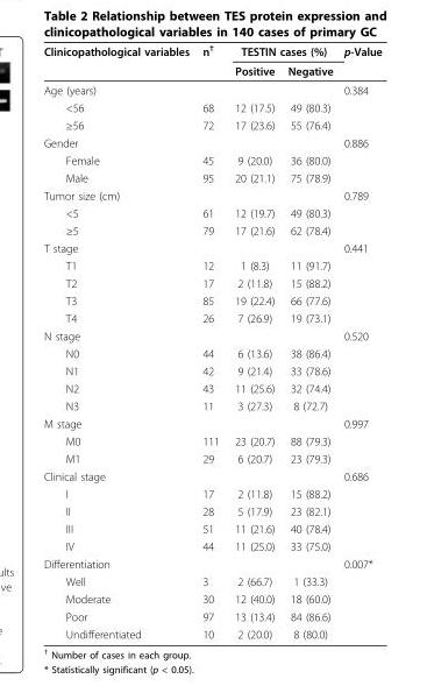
<table><thead><tr><td rowspan="2">Clinicopathological variables</td><td rowspan="2">n<sup>†</sup></td><td colspan="2">TESTIN cases (%)</td><td rowspan="2">p-Value</td></tr><tr><td>Positive</td><td>Negative</td></tr></thead><tbody><tr><td>Age (years)</td><td></td><td></td><td></td><td>0.384</td></tr><tr><td>&lt;56</td><td>68</td><td>12 (17.5)</td><td>49 (80.3)</td><td></td></tr><tr><td>≥56</td><td>72</td><td>17 (23.6)</td><td>55 (76.4)</td><td></td></tr><tr><td>Gender</td><td></td><td></td><td></td><td>0.886</td></tr><tr><td>Female</td><td>45</td><td>9 (20.0)</td><td>36 (80.0)</td><td></td></tr><tr><td>Male</td><td>95</td><td>20 (21.1)</td><td>75 (78.9)</td><td></td></tr><tr><td>Tumor size (cm)</td><td></td><td></td><td></td><td>0.789</td></tr><tr><td>&lt;5</td><td>61</td><td>12 (19.7)</td><td>49 (80.3)</td><td></td></tr><tr><td>≥5</td><td>79</td><td>17 (21.6)</td><td>62 (78.4)</td><td></td></tr><tr><td>T stage</td><td></td><td></td><td></td><td>0.441</td></tr><tr><td>T1</td><td>12</td><td>1 (8.3)</td><td>11 (91.7)</td><td></td></tr><tr><td>T2</td><td>17</td><td>2 (11.8)</td><td>15 (88.2)</td><td></td></tr><tr><td>T3</td><td>85</td><td>19 (22.4)</td><td>66 (77.6)</td><td></td></tr><tr><td>T4</td><td>26</td><td>7 (26.9)</td><td>19 (73.1)</td><td></td></tr><tr><td>N stage</td><td></td><td></td><td></td><td>0.520</td></tr><tr><td>N0</td><td>44</td><td>6 (13.6)</td><td>38 (86.4)</td><td></td></tr><tr><td>N1</td><td>42</td><td>9 (21.4)</td><td>33 (78.6)</td><td></td></tr><tr><td>N2</td><td>43</td><td>11 (25.6)</td><td>32 (74.4)</td><td></td></tr><tr><td>N3</td><td>11</td><td>3 (27.3)</td><td>8 (72.7)</td><td></td></tr><tr><td>M stage</td><td></td><td></td><td></td><td>0.997</td></tr><tr><td>M0</td><td>111</td><td>23 (20.7)</td><td>88 (79.3)</td><td></td></tr><tr><td>M1</td><td>29</td><td>6 (20.7)</td><td>23 (79.3)</td><td></td></tr><tr><td>Clinical stage</td><td></td><td></td><td></td><td>0.686</td></tr><tr><td>I</td><td>17</td><td>2 (11.8)</td><td>15 (88.2)</td><td></td></tr><tr><td>II</td><td>28</td><td>5 (17.9)</td><td>23 (82.1)</td><td></td></tr><tr><td>III</td><td>51</td><td>11 (21.6)</td><td>40 (78.4)</td><td></td></tr><tr><td>IV</td><td>44</td><td>11 (25.0)</td><td>33 (75.0)</td><td></td></tr><tr><td>Differentiation</td><td></td><td></td><td></td><td>0.007*</td></tr><tr><td>Well</td><td>3</td><td>2 (66.7)</td><td>1 (33.3)</td><td></td></tr><tr><td>Moderate</td><td>30</td><td>12 (40.0)</td><td>18 (60.0)</td><td></td></tr><tr><td>Poor</td><td>97</td><td>13 (13.4)</td><td>84 (86.6)</td><td></td></tr><tr><td>Undifferentiated</td><td>10</td><td>2 (20.0)</td><td>8 (80.0)</td><td></td></tr></tbody></table>